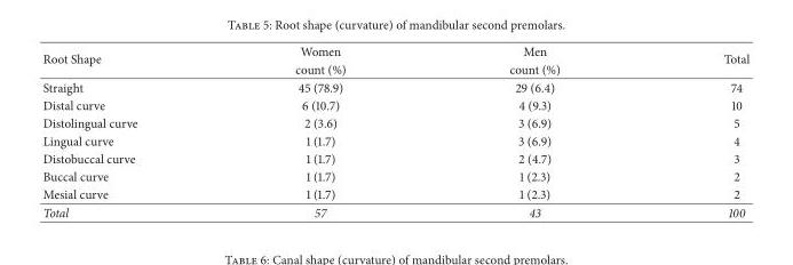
<table><thead><tr><td rowspan="2">Root Shape</td><td rowspan="2">Women count (%)</td><td rowspan="2">Men count (%)</td><td rowspan="2">Total</td></tr><tr></tr></thead><tbody><tr><td>Straight</td><td>45 (78.9)</td><td>29 (6.4)</td><td>74</td></tr><tr><td>Distal curve</td><td>6 (10.7)</td><td>4 (9.3)</td><td>10</td></tr><tr><td>Distolingual curve</td><td>2 (3.6)</td><td>3 (6.9)</td><td>5</td></tr><tr><td>Lingual curve</td><td>1 (1.7)</td><td>3 (6.9)</td><td>4</td></tr><tr><td>Distobuccal curve</td><td>1 (1.7)</td><td>2 (4.7)</td><td>3</td></tr><tr><td>Buccal curve</td><td>1 (1.7)</td><td>1 (2.3)</td><td>2</td></tr><tr><td>Mesial curve</td><td>1 (1.7)</td><td>1 (2.3)</td><td>2</td></tr><tr><td>Total</td><td>57</td><td>43</td><td>100</td></tr></tbody></table>